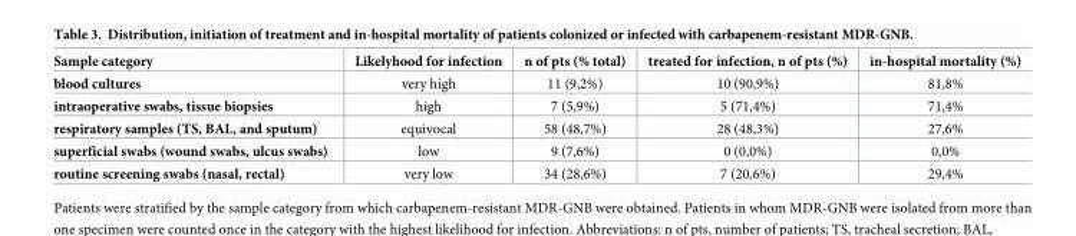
<table><thead><tr><td>Sample category</td><td>Likelyhood for infection</td><td>n of pts (% total)</td><td>treated for infection, n of pts (%)</td><td>in-hospital mortality (%)</td></tr></thead><tbody><tr><td>blood cultures</td><td>very high</td><td>11 (9,2%)</td><td>10 (90,9%)</td><td>81,8%</td></tr><tr><td>intraoperative swabs, tissue biopsies</td><td>high</td><td>7 (5,9%)</td><td>5 (71,4%)</td><td>71,4%</td></tr><tr><td>respiratory samples (TS, BAL, and sputum)</td><td>equivocal</td><td>58 (48,7%)</td><td>28 (48,3%)</td><td>27,6%</td></tr><tr><td>superficial swabs (wound swabs, ulcus swabs)</td><td>low</td><td>9 (7,6%)</td><td>0 (0,0%)</td><td>0,0%</td></tr><tr><td>routine screening swabs (nasal, rectal)</td><td>very low</td><td>34 (28,6%)</td><td>7 (20,6%)</td><td>29,4%</td></tr></tbody></table>